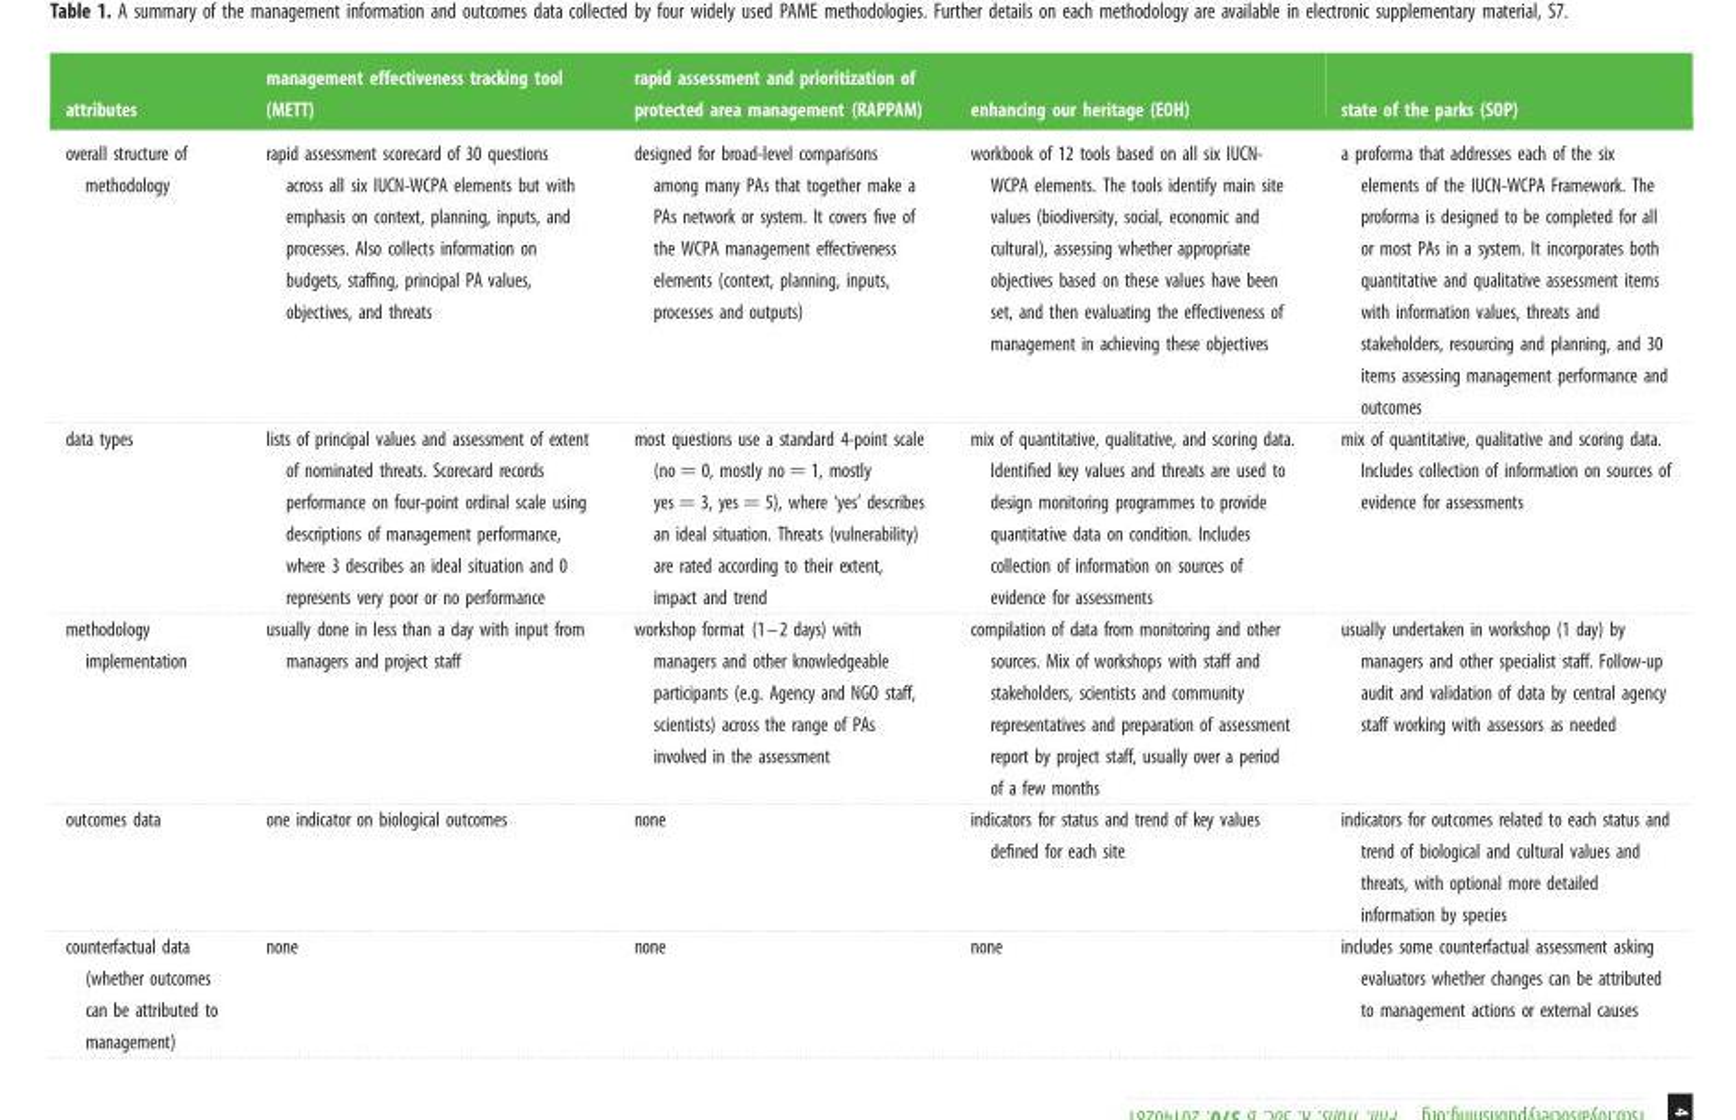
<table><thead><tr><td>attributes</td><td>management effectiveness tracking tool (METT)</td><td>rapid assessment and prioritization of protected area management (RAPPAM)</td><td>enhancing our heritage (EOH)</td><td>state of the parks (SOP)</td></tr></thead><tbody><tr><td>overall structure of methodology</td><td>rapid assessment scorecard of 30 questions across all six IUCN-WCPA elements but with emphasis on context, planning, inputs, and processes. Also collects information on budgets, staffing, principal PA values, objectives, and threats</td><td>designed for broad-level comparisons among many PAs that together make a PAs network or system. It covers five of the WCPA management effectiveness elements (context, planning, inputs, processes and outputs)</td><td>workbook of 12 tools based on all six IUCN- WCPA elements. The tools identify main site values (biodiversity, social, economic and cultural), assessing whether appropriate objectives based on these values have been set, and then evaluating the effectiveness of management in achieving these objectives</td><td>a proforma that addresses each of the six elements of the IUCN-WCPA Framework. The proforma is designed to be completed for all or most PAs in a system. It incorporates both quantitative and qualitative assessment items with information values, threats and stakeholders, resourcing and planning, and 30 items assessing management performance and outcomes</td></tr><tr><td>data types</td><td>lists of principal values and assessment of extent of nominated threats. Scorecard records performance on four-point ordinal scale using descriptions of management performance, where 3 describes an ideal situation and 0 represents very poor or no performance</td><td>most questions use a standard 4-point scale (no = 0, mostly no = 1, mostly yes = 3, yes = 5), where ‘yes’ describes an ideal situation. Threats (vulnerability) are rated according to their extent, impact and trend</td><td>mix of quantitative, qualitative, and scoring data. Identified key values and threats are used to design monitoring programmes to provide quantitative data on condition. Includes collection of information on sources of evidence for assessments</td><td>mix of quantitative, qualitative and scoring data. Includes collection of information on sources of evidence for assessments</td></tr><tr><td>methodology implementation</td><td>usually done in less than a day with input from managers and project staff</td><td>workshop format (1–2 days) with managers and other knowledgeable participants (e.g. Agency and NGO staff, scientists) across the range of PAs involved in the assessment</td><td>compilation of data from monitoring and other sources. Mix of workshops with staff and stakeholders, scientists and community representatives and preparation of assessment report by project staff, usually over a period of a few months</td><td>usually undertaken in workshop (1 day) by managers and other specialist staff. Follow-up audit and validation of data by central agency staff working with assessors as needed</td></tr><tr><td>outcomes data</td><td>one indicator on biological outcomes</td><td>none</td><td>indicators for status and trend of key values defined for each site</td><td>indicators for outcomes related to each status and trend of biological and cultural values and threats, with optional more detailed information by species</td></tr><tr><td>counterfactual data (whether outcomes can be attributed to management)</td><td>none</td><td>none</td><td>none</td><td>includes some counterfactual assessment asking evaluators whether changes can be attributed to management actions or external causes</td></tr></tbody></table>